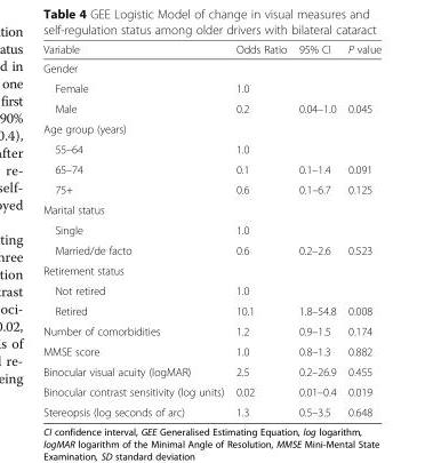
<table><thead><tr><td>Variable</td><td>Odds Ratio</td><td>95% CI</td><td>P value</td></tr></thead><tbody><tr><td colspan="4">Gender</td></tr><tr><td>Female</td><td>1.0</td><td></td><td></td></tr><tr><td>Male</td><td>0.2</td><td>0.04–1.0</td><td>0.045</td></tr><tr><td colspan="4">Age group (years)</td></tr><tr><td>55–64</td><td>1.0</td><td></td><td></td></tr><tr><td>65–74</td><td>0.1</td><td>0.1–1.4</td><td>0.091</td></tr><tr><td>75+</td><td>0.6</td><td>0.1–6.7</td><td>0.125</td></tr><tr><td colspan="4">Marital status</td></tr><tr><td>Single</td><td>1.0</td><td></td><td></td></tr><tr><td>Married/de facto</td><td>0.6</td><td>0.2–2.6</td><td>0.523</td></tr><tr><td colspan="4">Retirement status</td></tr><tr><td>Not retired</td><td>1.0</td><td></td><td></td></tr><tr><td>Retired</td><td>10.1</td><td>1.8–54.8</td><td>0.008</td></tr><tr><td>Number of comorbidities</td><td>1.2</td><td>0.9–1.5</td><td>0.174</td></tr><tr><td>MMSE score</td><td>1.0</td><td>0.8–1.3</td><td>0.882</td></tr><tr><td>Binocular visual acuity (logMAR)</td><td>2.5</td><td>0.2–26.9</td><td>0.455</td></tr><tr><td>Binocular contrast sensitivity (log units)</td><td>0.02</td><td>0.01–0.4</td><td>0.019</td></tr><tr><td>Stereopsis (log seconds of arc)</td><td>1.3</td><td>0.5–3.5</td><td>0.648</td></tr></tbody></table>